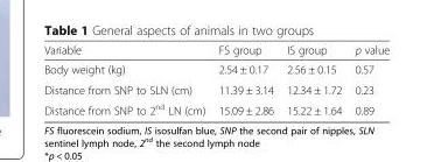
<table><thead><tr><td>Variable</td><td>FS group</td><td>IS group</td><td>p value</td></tr></thead><tbody><tr><td>Body weight (kg)</td><td>2.54 ± 0.17</td><td>2.56 ± 0.15</td><td>0.57</td></tr><tr><td>Distance from SNP to SLN (cm)</td><td>11.39 ± 3.14</td><td>12.34 ± 1.72</td><td>0.23</td></tr><tr><td>Distance from SNP to 2<sup>nd</sup> LN (cm)</td><td>15.09 ± 2.86</td><td>15.22 ± 1.64</td><td>0.89</td></tr></tbody></table>